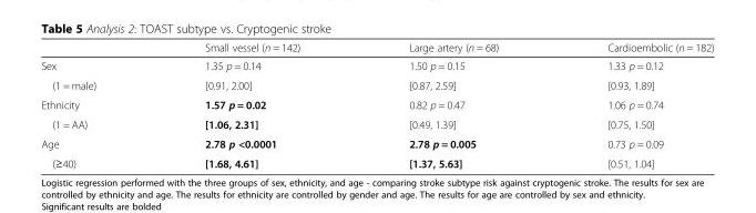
<table><thead><tr><td></td><td>Small vessel (n = 142)</td><td>Large artery (n = 68)</td><td>Cardioembolic (n = 182)</td></tr></thead><tbody><tr><td>Sex</td><td>1.35 p = 0.14</td><td>1.50 p = 0.15</td><td>1.33 p = 0.12</td></tr><tr><td>(1 = male)</td><td>[0.91, 2.00]</td><td>[0.87, 2.59]</td><td>[0.93, 1.89]</td></tr><tr><td>Ethnicity</td><td>1.57 p = 0.02</td><td>0.82 p = 0.47</td><td>1.06 p = 0.74</td></tr><tr><td>(1 = AA)</td><td>[1.06, 2.31]</td><td>[0.49, 1.39]</td><td>[0.75, 1.50]</td></tr><tr><td>Age</td><td>2.78 p &lt;0.0001</td><td>2.78 p = 0.005</td><td>0.73 p = 0.09</td></tr><tr><td>(≥40)</td><td>[1.68, 4.61]</td><td>[1.37, 5.63]</td><td>[0.51, 1.04]</td></tr></tbody></table>